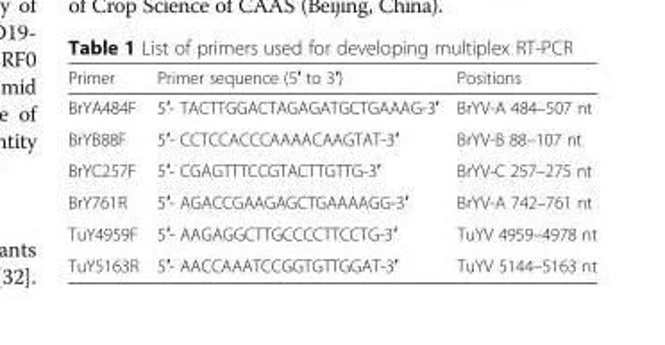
<table><thead><tr><td>Primer</td><td>Primer sequence (5′ to 3′)</td><td>Positions</td></tr></thead><tbody><tr><td>BrYA484F</td><td>5′- TACTTGGACTAGAGATGCTGAAAG-3′</td><td>BrYV-A 484–507 nt</td></tr><tr><td>BrYB88F</td><td>5′- CCTCCACCCAAAACAAGTAT-3′</td><td>BrYV-B 88–107 nt</td></tr><tr><td>BrYC257F</td><td>5′- CGAGTTTCCGTACTTGTTG-3′</td><td>BrYV-C 257–275 nt</td></tr><tr><td>BrY761R</td><td>5′- AGACCGAAGAGCTGAAAAGG-3′</td><td>BrYV-A 742–761 nt</td></tr><tr><td>TuY4959F</td><td>5′- AAGAGGCTTGCCCCTTCCTG-3′</td><td>TuYV 4959–4978 nt</td></tr><tr><td>TuY5163R</td><td>5′- AACCAAATCCGGTGTTGGAT-3′</td><td>TuYV 5144–5163 nt</td></tr></tbody></table>